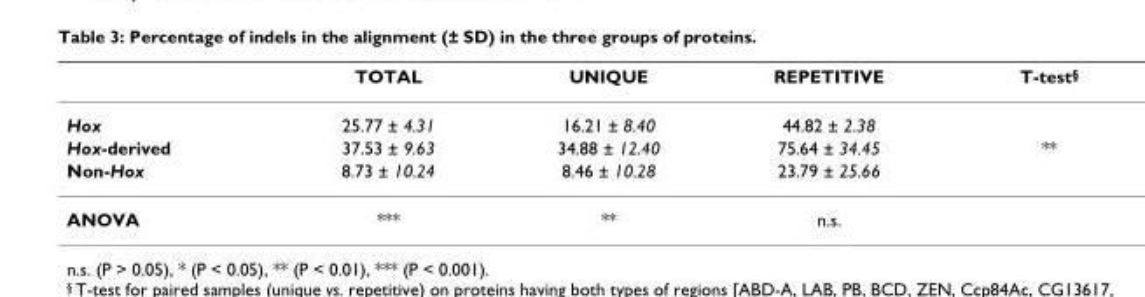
<table><thead><tr><td></td><td>TOTAL</td><td>UNIQUE</td><td>REPETITIVE</td><td>T-test<sup>§</sup></td></tr></thead><tbody><tr><td>Hox</td><td>25.77 ± 4.31</td><td>16.21 ± 8.40</td><td>44.82 ± 2.38</td><td></td></tr><tr><td>Hox-derived</td><td>37.53 ± 9.63</td><td>34.88 ± 12.40</td><td>75.64 ± 34.45</td><td>**</td></tr><tr><td>Non-Hox</td><td>8.73 ± 10.24</td><td>8.46 ± 10.28</td><td>23.79 ± 25.66</td><td></td></tr><tr><td>ANOVA</td><td>***</td><td>**</td><td>n.s.</td><td></td></tr></tbody></table>